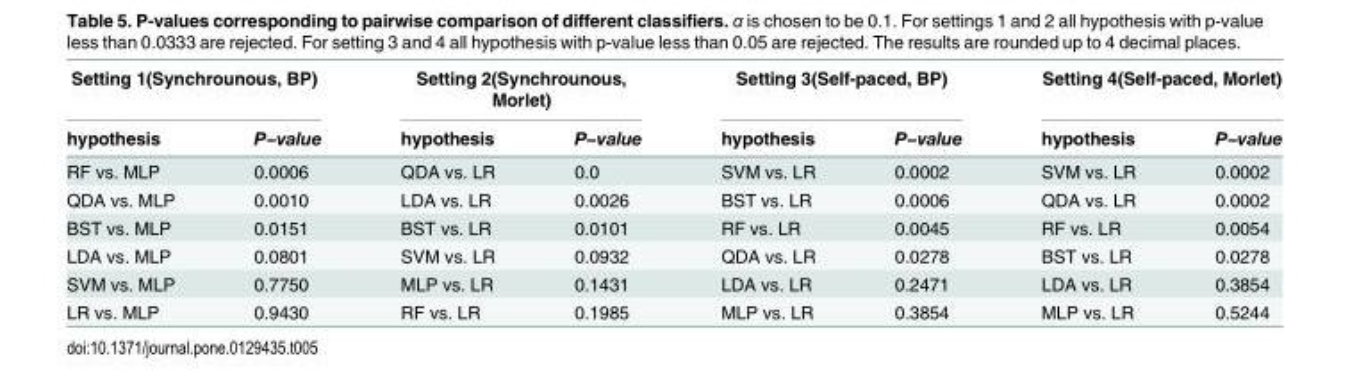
<table><thead><tr><td colspan="2">Setting 1(Synchrounous, BP)</td><td colspan="2">Setting 2(Synchrounous, Morlet)</td><td colspan="2">Setting 3(Self-paced, BP)</td><td colspan="2">Setting 4(Self-paced, Morlet)</td></tr><tr><td>hypothesis</td><td>P−value</td><td>hypothesis</td><td>P−value</td><td>hypothesis</td><td>P−value</td><td>hypothesis</td><td>P−value</td></tr></thead><tbody><tr><td>RF vs. MLP</td><td>0.0006</td><td>QDA vs. LR</td><td>0.0</td><td>SVM vs. LR</td><td>0.0002</td><td>SVM vs. LR</td><td>0.0002</td></tr><tr><td>QDA vs. MLP</td><td>0.0010</td><td>LDA vs. LR</td><td>0.0026</td><td>BST vs. LR</td><td>0.0006</td><td>QDA vs. LR</td><td>0.0002</td></tr><tr><td>BST vs. MLP</td><td>0.0151</td><td>BST vs. LR</td><td>0.0101</td><td>RF vs. LR</td><td>0.0045</td><td>RF vs. LR</td><td>0.0054</td></tr><tr><td>LDA vs. MLP</td><td>0.0801</td><td>SVM vs. LR</td><td>0.0932</td><td>QDA vs. LR</td><td>0.0278</td><td>BST vs. LR</td><td>0.0278</td></tr><tr><td>SVM vs. MLP</td><td>0.7750</td><td>MLP vs. LR</td><td>0.1431</td><td>LDA vs. LR</td><td>0.2471</td><td>LDA vs. LR</td><td>0.3854</td></tr><tr><td>LR vs. MLP</td><td>0.9430</td><td>RF vs. LR</td><td>0.1985</td><td>MLP vs. LR</td><td>0.3854</td><td>MLP vs. LR</td><td>0.5244</td></tr></tbody></table>